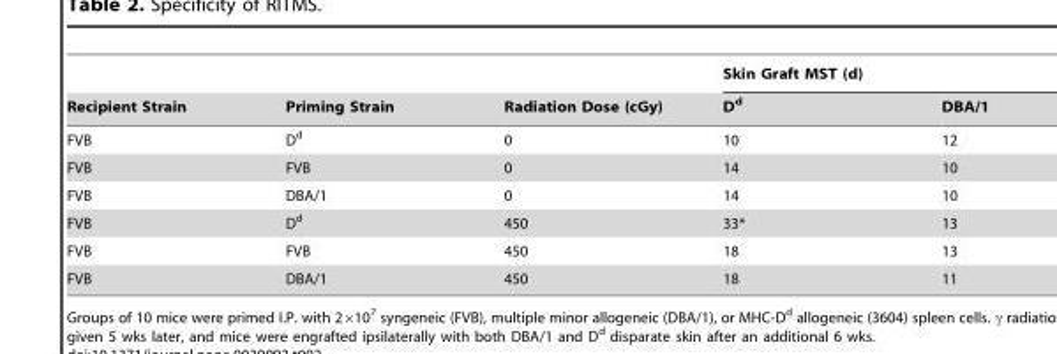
<table><thead><tr><td rowspan="2">Recipient Strain</td><td rowspan="2">Priming Strain</td><td rowspan="2">Radiation Dose (cGy)</td><td colspan="2">Skin Graft MST (d)</td></tr><tr><td>D<sup>d</sup></td><td>DBA/1</td></tr></thead><tbody><tr><td>FVB</td><td>D<sup>d</sup></td><td>0</td><td>10</td><td>12</td></tr><tr><td>FVB</td><td>FVB</td><td>0</td><td>14</td><td>10</td></tr><tr><td>FVB</td><td>DBA/1</td><td>0</td><td>14</td><td>10</td></tr><tr><td>FVB</td><td>D<sup>d</sup></td><td>450</td><td>33*</td><td>13</td></tr><tr><td>FVB</td><td>FVB</td><td>450</td><td>18</td><td>13</td></tr><tr><td>FVB</td><td>DBA/1</td><td>450</td><td>18</td><td>11</td></tr></tbody></table>